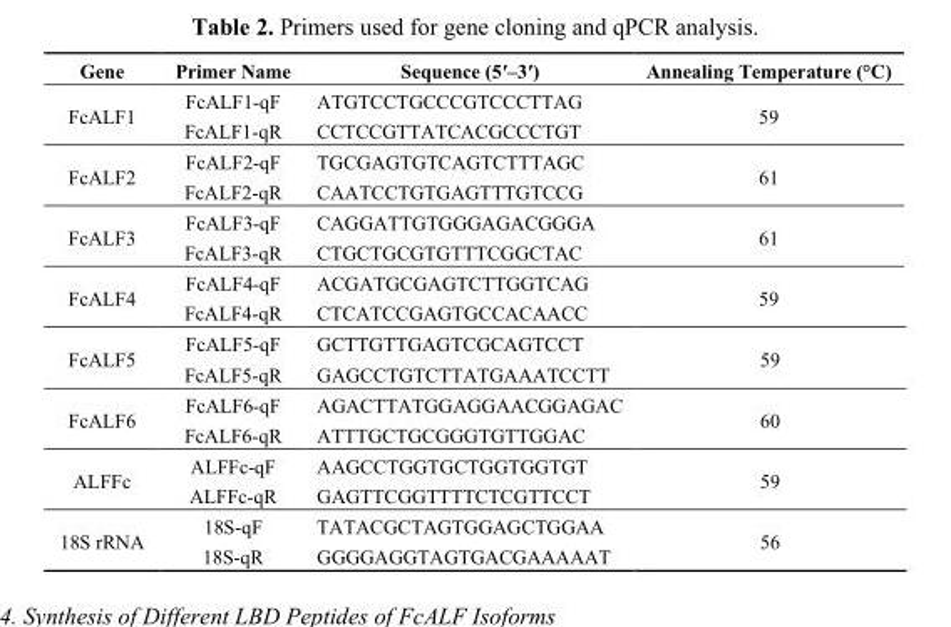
<table><thead><tr><td>Gene</td><td>Primer Name</td><td>Sequence (5′–3′)</td><td>Annealing Temperature (°C)</td></tr></thead><tbody><tr><td rowspan="2">FcALF1</td><td>FcALF1-qF</td><td>ATGTCCTGCCCGTCCCTTAG</td><td rowspan="2">59</td></tr><tr><td>FcALF1-qR</td><td>CCTCCGTTATCACGCCCTGT</td></tr><tr><td rowspan="2">FcALF2</td><td>FcALF2-qF</td><td>TGCGAGTGTCAGTCTTTAGC</td><td rowspan="2">61</td></tr><tr><td>FcALF2-qR</td><td>CAATCCTGTGAGTTTGTCCG</td></tr><tr><td rowspan="2">FcALF3</td><td>FcALF3-qF</td><td>CAGGATTGTGGGAGACGGGA</td><td rowspan="2">61</td></tr><tr><td>FcALF3-qR</td><td>CTGCTGCGTGTTTCGGCTAC</td></tr><tr><td rowspan="2">FcALF4</td><td>FcALF4-qF</td><td>ACGATGCGAGTCTTGGTCAG</td><td rowspan="2">59</td></tr><tr><td>FcALF4-qR</td><td>CTCATCCGAGTGCCACAACC</td></tr><tr><td rowspan="2">FcALF5</td><td>FcALF5-qF</td><td>GCTTGTTGAGTCGCAGTCCT</td><td rowspan="2">59</td></tr><tr><td>FcALF5-qR</td><td>GAGCCTGTCTTATGAAATCCTT</td></tr><tr><td rowspan="2">FcALF6</td><td>FcALF6-qF</td><td>AGACTTATGGAGGAACGGAGAC</td><td rowspan="2">60</td></tr><tr><td>FcALF6-qR</td><td>ATTTGCTGCGGGTGTTGGAC</td></tr><tr><td rowspan="2">ALFFc</td><td>ALFFc-qF</td><td>AAGCCTGGTGCTGGTGGTGT</td><td rowspan="2">59</td></tr><tr><td>ALFFc-qR</td><td>GAGTTCGGTTTTCTCGTTCCT</td></tr><tr><td rowspan="2">18S rRNA</td><td>18S-qF</td><td>TATACGCTAGTGGAGCTGGAA</td><td rowspan="2">56</td></tr><tr><td>18S-qR</td><td>GGGGAGGTAGTGACGAAAAAT</td></tr></tbody></table>